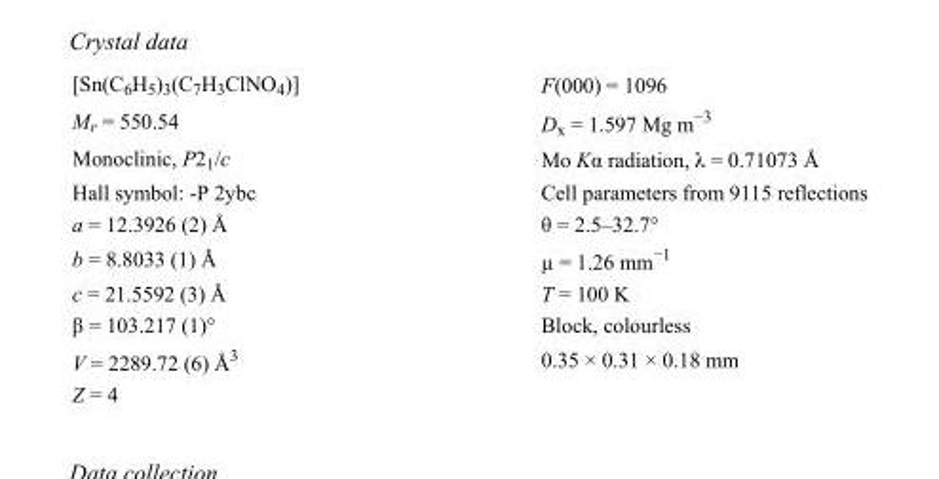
<table><tbody><tr><td>[Sn(C<sub>6</sub>H<sub>5</sub>)<sub>3</sub>(C<sub>7</sub>H<sub>3</sub>ClNO<sub>4</sub>)]</td><td>F(000) = 1096</td></tr><tr><td>M<sub>r</sub> = 550.54</td><td>D<sub>x</sub> = 1.597 Mg m<sup>−3</sup></td></tr><tr><td>Monoclinic, P2<sub>1</sub>/c</td><td>Mo Kα radiation, λ = 0.71073 Å</td></tr><tr><td>Hall symbol: -P 2ybc</td><td>Cell parameters from 9115 reflections</td></tr><tr><td>a = 12.3926 (2) Å</td><td>θ = 2.5–32.7°</td></tr><tr><td>b = 8.8033 (1) Å</td><td>µ = 1.26 mm<sup>−1</sup></td></tr><tr><td>c = 21.5592 (3) Å</td><td>T = 100 K</td></tr><tr><td>β = 103.217 (1)°</td><td>Block, colourless</td></tr><tr><td>V = 2289.72 (6) Å<sup>3</sup></td><td>0.35 × 0.31 × 0.18 mm</td></tr><tr><td>Z = 4</td><td></td></tr></tbody></table>